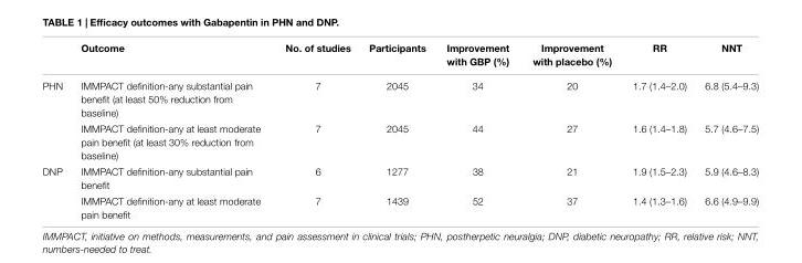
<table><thead><tr><td></td><td>Outcome</td><td>No. of studies</td><td>Participants</td><td>Improvement with GBP (%)</td><td>Improvement with placebo (%)</td><td>RR</td><td>NNT</td></tr></thead><tbody><tr><td rowspan="2">PHN</td><td>IMMPACT definition-any substantial pain benefit (at least 50% reduction from baseline)</td><td>7</td><td>2045</td><td>34</td><td>20</td><td>1.7 (1.4–2.0)</td><td>6.8 (5.4–9.3)</td></tr><tr><td>IMMPACT definition-any at least moderate pain benefit (at least 30% reduction from baseline)</td><td>7</td><td>2045</td><td>44</td><td>27</td><td>1.6 (1.4–1.8)</td><td>5.7 (4.6–7.5)</td></tr><tr><td rowspan="2">DNP</td><td>IMMPACT definition-any substantial pain benefit</td><td>6</td><td>1277</td><td>38</td><td>21</td><td>1.9 (1.5–2.3)</td><td>5.9 (4.6–8.3)</td></tr><tr><td>IMMPACT definition-any at least moderate pain benefit</td><td>7</td><td>1439</td><td>52</td><td>37</td><td>1.4 (1.3–1.6)</td><td>6.6 (4.9–9.9)</td></tr></tbody></table>